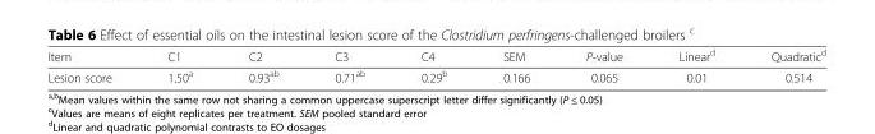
<table><thead><tr><td>Item</td><td>C1</td><td>C2</td><td>C3</td><td>C4</td><td>SEM</td><td>P-value</td><td>Linear<sup>d</sup></td><td>Quadratic<sup>d</sup></td></tr></thead><tbody><tr><td>Lesion score</td><td>1.50<sup>a</sup></td><td>0.93<sup>ab</sup></td><td>0.71<sup>ab</sup></td><td>0.29<sup>b</sup></td><td>0.166</td><td>0.065</td><td>0.01</td><td>0.514</td></tr></tbody></table>